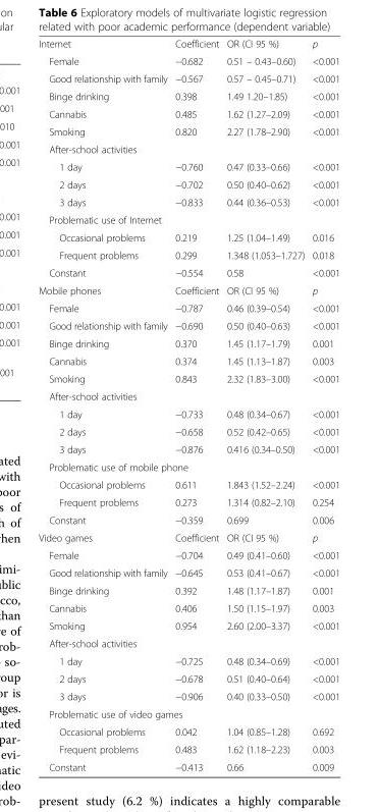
<table><tbody><tr><td>Internet</td><td>Coefficient</td><td>OR (CI 95 %)</td><td>p</td></tr><tr><td>Female</td><td>−0.682</td><td>0.51 – 0.43–0.60)</td><td>&lt;0.001</td></tr><tr><td>Good relationship with family</td><td>−0.567</td><td>0.57 – 0.45–0.71)</td><td>&lt;0.001</td></tr><tr><td>Binge drinking</td><td>0.398</td><td>1.49 1.20–1.85)</td><td>&lt;0.001</td></tr><tr><td>Cannabis</td><td>0.485</td><td>1.62 (1.27–2.09)</td><td>&lt;0.001</td></tr><tr><td>Smoking</td><td>0.820</td><td>2.27 (1.78–2.90)</td><td>&lt;0.001</td></tr><tr><td colspan="4">After-school activities</td></tr><tr><td>1 day</td><td>−0.760</td><td>0.47 (0.33–0.66)</td><td>&lt;0.001</td></tr><tr><td>2 days</td><td>−0.702</td><td>0.50 (0.40–0.62)</td><td>&lt;0.001</td></tr><tr><td>3 days</td><td>−0.833</td><td>0.44 (0.36–0.53)</td><td>&lt;0.001</td></tr><tr><td colspan="4">Problematic use of Internet</td></tr><tr><td>Occasional problems</td><td>0.219</td><td>1.25 (1.04–1.49)</td><td>0.016</td></tr><tr><td>Frequent problems</td><td>0.299</td><td>1.348 (1.053–1.727)</td><td>0.018</td></tr><tr><td>Constant</td><td>−0.554</td><td>0.58</td><td>&lt;0.001</td></tr><tr><td>Mobile phones</td><td>Coefficient</td><td>OR (CI 95 %)</td><td>p</td></tr><tr><td>Female</td><td>−0.787</td><td>0.46 (0.39–0.54)</td><td>&lt;0.001</td></tr><tr><td>Good relationship with family</td><td>−0.690</td><td>0.50 (0.40–0.63)</td><td>&lt;0.001</td></tr><tr><td>Binge drinking</td><td>0.370</td><td>1.45 (1.17–1.79)</td><td>0.001</td></tr><tr><td>Cannabis</td><td>0.374</td><td>1.45 (1.13–1.87)</td><td>0.003</td></tr><tr><td>Smoking</td><td>0.843</td><td>2.32 (1.83–3.00)</td><td>&lt;0.001</td></tr><tr><td colspan="4">After-school activities</td></tr><tr><td>1 day</td><td>−0.733</td><td>0.48 (0.34–0.67)</td><td>&lt;0.001</td></tr><tr><td>2 days</td><td>−0.658</td><td>0.52 (0.42–0.65)</td><td>&lt;0.001</td></tr><tr><td>3 days</td><td>−0.876</td><td>0.416 (0.34–0.50)</td><td>&lt;0.001</td></tr><tr><td colspan="4">Problematic use of mobile phone</td></tr><tr><td>Occasional problems</td><td>0.611</td><td>1.843 (1.52–2.24)</td><td>&lt;0.001</td></tr><tr><td>Frequent problems</td><td>0.273</td><td>1.314 (0.82–2.10)</td><td>0.254</td></tr><tr><td>Constant</td><td>−0.359</td><td>0.699</td><td>0.006</td></tr><tr><td>Video games</td><td>Coefficient</td><td>OR (CI 95 %)</td><td>p</td></tr><tr><td>Female</td><td>−0.704</td><td>0.49 (0.41–0.60)</td><td>&lt;0.001</td></tr><tr><td>Good relationship with family</td><td>−0.645</td><td>0.53 (0.41–0.67)</td><td>&lt;0.001</td></tr><tr><td>Binge drinking</td><td>0.392</td><td>1.48 (1.17–1.87)</td><td>0.001</td></tr><tr><td>Cannabis</td><td>0.406</td><td>1.50 (1.15–1.97)</td><td>0.003</td></tr><tr><td>Smoking</td><td>0.954</td><td>2.60 (2.00–3.37)</td><td>&lt;0.001</td></tr><tr><td colspan="4">After-school activities</td></tr><tr><td>1 day</td><td>−0.725</td><td>0.48 (0.34–0.69)</td><td>&lt;0.001</td></tr><tr><td>2 days</td><td>−0.678</td><td>0.51 (0.40–0.64)</td><td>&lt;0.001</td></tr><tr><td>3 days</td><td>−0.906</td><td>0.40 (0.33–0.50)</td><td>&lt;0.001</td></tr><tr><td colspan="4">Problematic use of video games</td></tr><tr><td>Occasional problems</td><td>0.042</td><td>1.04 (0.85–1.28)</td><td>0.692</td></tr><tr><td>Frequent problems</td><td>0.483</td><td>1.62 (1.18–2.23)</td><td>0.003</td></tr><tr><td>Constant</td><td>−0.413</td><td>0.66</td><td>0.009</td></tr></tbody></table>